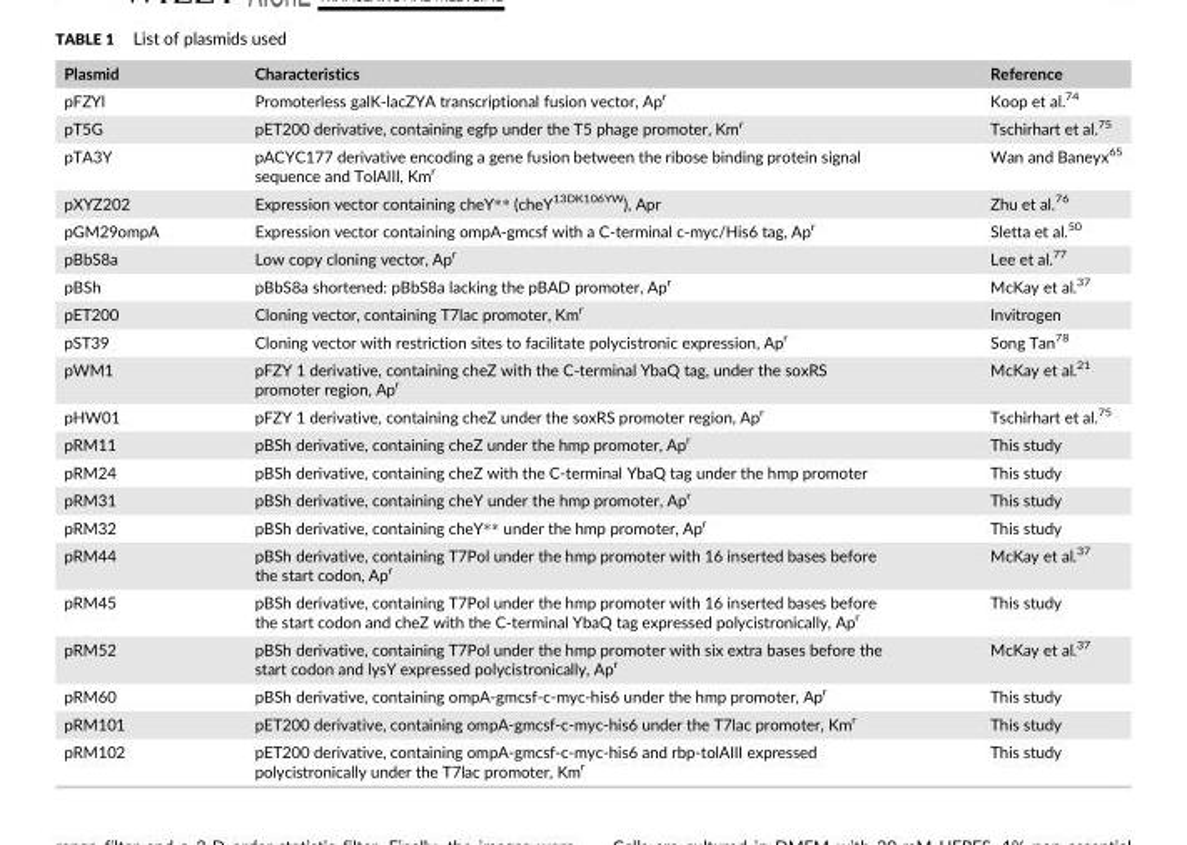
<table><thead><tr><td>Plasmid</td><td>Characteristics</td><td>Reference</td></tr></thead><tbody><tr><td>pFZYl</td><td>Promoterless galK-lacZYA transcriptional fusion vector, Ap<sup>r</sup></td><td>Koop et al.<sup>74</sup></td></tr><tr><td>pT5G</td><td>pET200 derivative, containing egfp under the T5 phage promoter, Km<sup>r</sup></td><td>Tschirhart et al.<sup>75</sup></td></tr><tr><td>pTA3Y</td><td>pACYC177 derivative encoding a gene fusion between the ribose binding protein signal sequence and TolAIII, Km<sup>r</sup></td><td>Wan and Baneyx<sup>65</sup></td></tr><tr><td>pXYZ202</td><td>Expression vector containing cheY** (cheY<sup>13DK106YW</sup>), Apr</td><td>Zhu et al.<sup>76</sup></td></tr><tr><td>pGM29ompA</td><td>Expression vector containing ompA-gmcsf with a C-terminal c-myc/His6 tag, Ap<sup>r</sup></td><td>Sletta et al.<sup>50</sup></td></tr><tr><td>pBbS8a</td><td>Low copy cloning vector, Ap<sup>r</sup></td><td>Lee et al.<sup>77</sup></td></tr><tr><td>pBSh</td><td>pBbS8a shortened: pBbS8a lacking the pBAD promoter, Ap<sup>r</sup></td><td>McKay et al.<sup>37</sup></td></tr><tr><td>pET200</td><td>Cloning vector, containing T7lac promoter, Km<sup>r</sup></td><td>Invitrogen</td></tr><tr><td>pST39</td><td>Cloning vector with restriction sites to facilitate polycistronic expression, Ap<sup>r</sup></td><td>Song Tan<sup>78</sup></td></tr><tr><td>pWM1</td><td>pFZY 1 derivative, containing cheZ with the C-terminal YbaQ tag, under the soxRS promoter region, Ap<sup>r</sup></td><td>McKay et al.<sup>21</sup></td></tr><tr><td>pHW01</td><td>pFZY 1 derivative, containing cheZ under the soxRS promoter region, Ap<sup>r</sup></td><td>Tschirhart et al.<sup>75</sup></td></tr><tr><td>pRM11</td><td>pBSh derivative, containing cheZ under the hmp promoter, Ap<sup>r</sup></td><td>This study</td></tr><tr><td>pRM24</td><td>pBSh derivative, containing cheZ with the C-terminal YbaQ tag under the hmp promoter</td><td>This study</td></tr><tr><td>pRM31</td><td>pBSh derivative, containing cheY under the hmp promoter, Ap<sup>r</sup></td><td>This study</td></tr><tr><td>pRM32</td><td>pBSh derivative, containing cheY** under the hmp promoter, Ap<sup>r</sup></td><td>This study</td></tr><tr><td>pRM44</td><td>pBSh derivative, containing T7Pol under the hmp promoter with 16 inserted bases before the start codon, Ap<sup>r</sup></td><td>McKay et al.<sup>37</sup></td></tr><tr><td>pRM45</td><td>pBSh derivative, containing T7Pol under the hmp promoter with 16 inserted bases before the start codon and cheZ with the C-terminal YbaQ tag expressed polycistronically, Ap<sup>r</sup></td><td>This study</td></tr><tr><td>pRM52</td><td>pBSh derivative, containing T7Pol under the hmp promoter with six extra bases before the start codon and lysY expressed polycistronically, Ap<sup>r</sup></td><td>McKay et al.<sup>37</sup></td></tr><tr><td>pRM60</td><td>pBSh derivative, containing ompA-gmcsf-c-myc-his6 under the hmp promoter, Ap<sup>r</sup></td><td>This study</td></tr><tr><td>pRM101</td><td>pET200 derivative, containing ompA-gmcsf-c-myc-his6 under the T7lac promoter, Km<sup>r</sup></td><td>This study</td></tr><tr><td>pRM102</td><td>pET200 derivative, containing ompA-gmcsf-c-myc-his6 and rbp-tolAIII expressed polycistronically under the T7lac promoter, Km<sup>r</sup></td><td>This study</td></tr></tbody></table>